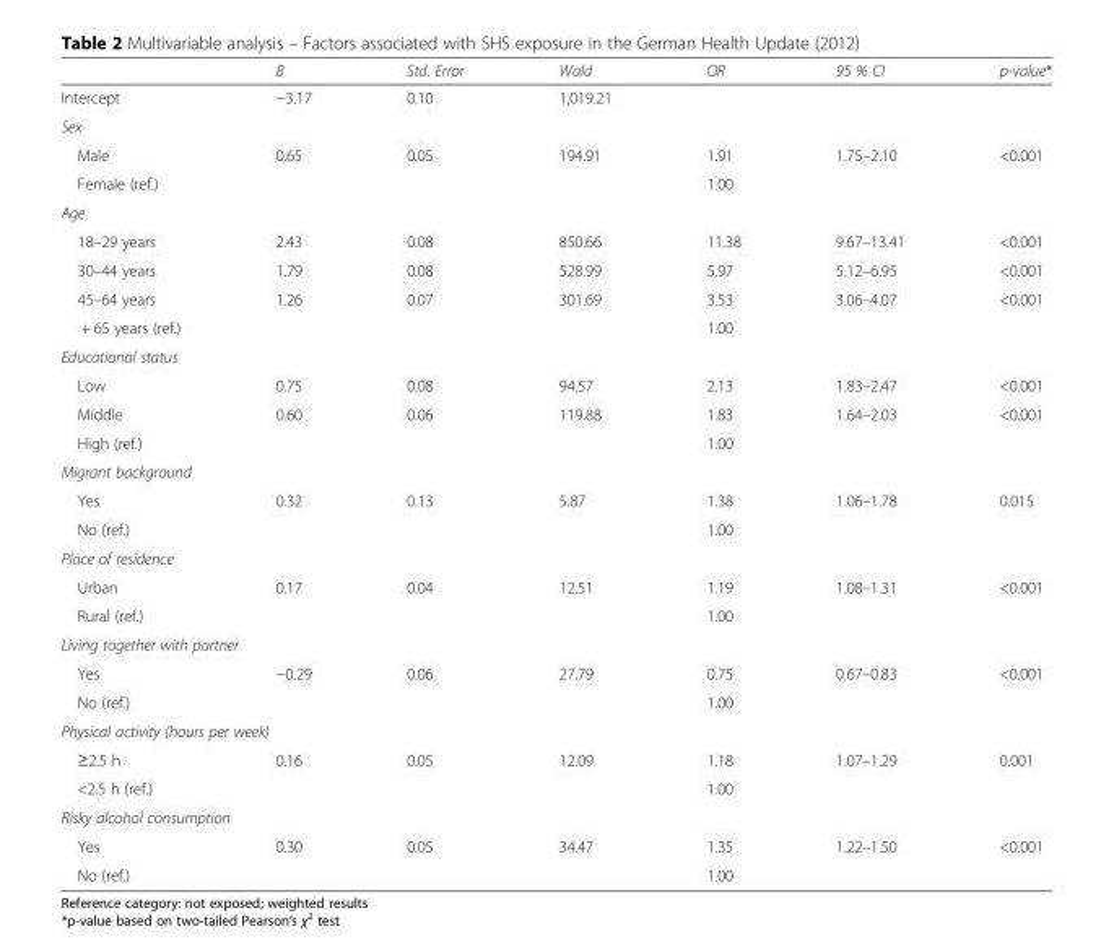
<table><thead><tr><td></td><td>B</td><td>Std. Error</td><td>Wald</td><td>OR</td><td>95 % CI</td><td>p-value*</td></tr></thead><tbody><tr><td>Intercept</td><td>−3.17</td><td>0.10</td><td>1,019.21</td><td></td><td></td><td></td></tr><tr><td colspan="7">Sex</td></tr><tr><td>Male</td><td>0.65</td><td>0.05</td><td>194.91</td><td>1.91</td><td>1.75–2.10</td><td>&lt;0.001</td></tr><tr><td>Female (ref.)</td><td></td><td></td><td></td><td>1.00</td><td></td><td></td></tr><tr><td colspan="7">Age</td></tr><tr><td>18–29 years</td><td>2.43</td><td>0.08</td><td>850.66</td><td>11.38</td><td>9.67–13.41</td><td>&lt;0.001</td></tr><tr><td>30–44 years</td><td>1.79</td><td>0.08</td><td>528.99</td><td>5.97</td><td>5.12–6.95</td><td>&lt;0.001</td></tr><tr><td>45–64 years</td><td>1.26</td><td>0.07</td><td>301.69</td><td>3.53</td><td>3.06–4.07</td><td>&lt;0.001</td></tr><tr><td>+ 65 years (ref.)</td><td></td><td></td><td></td><td>1.00</td><td></td><td></td></tr><tr><td colspan="7">Educational status</td></tr><tr><td>Low</td><td>0.75</td><td>0.08</td><td>94.57</td><td>2.13</td><td>1.83–2.47</td><td>&lt;0.001</td></tr><tr><td>Middle</td><td>0.60</td><td>0.06</td><td>119.88</td><td>1.83</td><td>1.64–2.03</td><td>&lt;0.001</td></tr><tr><td>High (ref.)</td><td></td><td></td><td></td><td>1.00</td><td></td><td></td></tr><tr><td colspan="7">Migrant background</td></tr><tr><td>Yes</td><td>0.32</td><td>0.13</td><td>5.87</td><td>1.38</td><td>1.06–1.78</td><td>0.015</td></tr><tr><td>No (ref.)</td><td></td><td></td><td></td><td>1.00</td><td></td><td></td></tr><tr><td colspan="7">Place of residence</td></tr><tr><td>Urban</td><td>0.17</td><td>0.04</td><td>12.51</td><td>1.19</td><td>1.08–1.31</td><td>&lt;0.001</td></tr><tr><td>Rural (ref.)</td><td></td><td></td><td></td><td>1.00</td><td></td><td></td></tr><tr><td colspan="7">Living together with partner</td></tr><tr><td>Yes</td><td>−0.29</td><td>0.06</td><td>27.79</td><td>0.75</td><td>0.67–0.83</td><td>&lt;0.001</td></tr><tr><td>No (ref.)</td><td></td><td></td><td></td><td>1.00</td><td></td><td></td></tr><tr><td colspan="7">Physical activity (hours per week)</td></tr><tr><td>≥2.5 h</td><td>0.16</td><td>0.05</td><td>12.09</td><td>1.18</td><td>1.07–1.29</td><td>0.001</td></tr><tr><td>&lt;2.5 h (ref.)</td><td></td><td></td><td></td><td>1.00</td><td></td><td></td></tr><tr><td colspan="7">Risky alcohol consumption</td></tr><tr><td>Yes</td><td>0.30</td><td>0.05</td><td>34.47</td><td>1.35</td><td>1.22–1.50</td><td>&lt;0.001</td></tr><tr><td>No (ref.)</td><td></td><td></td><td></td><td>1.00</td><td></td><td></td></tr></tbody></table>